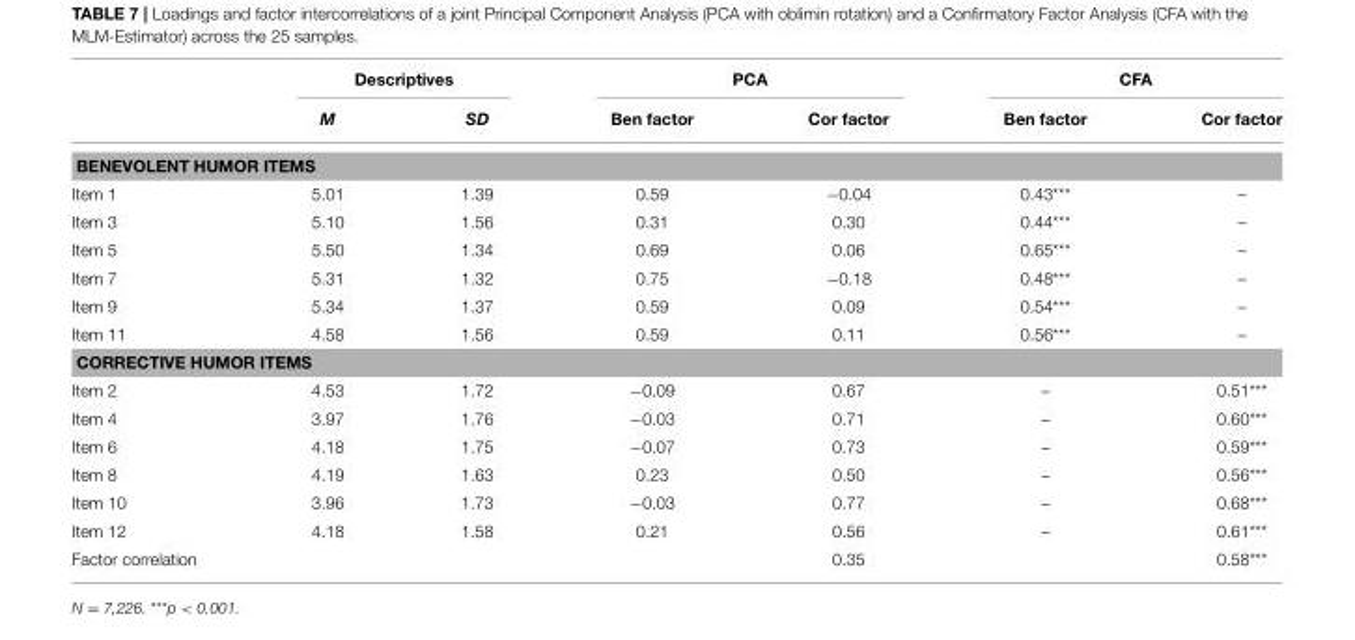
<table><thead><tr><td rowspan="2"></td><td colspan="2">Descriptives</td><td colspan="2">PCA</td><td colspan="2">CFA</td></tr><tr><td>M</td><td>SD</td><td>Ben factor</td><td>Cor factor</td><td>Ben factor</td><td>Cor factor</td></tr></thead><tbody><tr><td colspan="7">BENEVOLENT HUMOR ITEMS</td></tr><tr><td>Item 1</td><td>5.01</td><td>1.39</td><td>0.59</td><td>−0.04</td><td>0.43***</td><td>–</td></tr><tr><td>Item 3</td><td>5.10</td><td>1.56</td><td>0.31</td><td>0.30</td><td>0.44***</td><td>–</td></tr><tr><td>Item 5</td><td>5.50</td><td>1.34</td><td>0.69</td><td>0.06</td><td>0.65***</td><td>–</td></tr><tr><td>Item 7</td><td>5.31</td><td>1.32</td><td>0.75</td><td>−0.18</td><td>0.48***</td><td>–</td></tr><tr><td>Item 9</td><td>5.34</td><td>1.37</td><td>0.59</td><td>0.09</td><td>0.54***</td><td>–</td></tr><tr><td>Item 11</td><td>4.58</td><td>1.56</td><td>0.59</td><td>0.11</td><td>0.56***</td><td>–</td></tr><tr><td colspan="7">CORRECTIVE HUMOR ITEMS</td></tr><tr><td>Item 2</td><td>4.53</td><td>1.72</td><td>−0.09</td><td>0.67</td><td>–</td><td>0.51***</td></tr><tr><td>Item 4</td><td>3.97</td><td>1.76</td><td>−0.03</td><td>0.71</td><td>–</td><td>0.60***</td></tr><tr><td>Item 6</td><td>4.18</td><td>1.75</td><td>−0.07</td><td>0.73</td><td>–</td><td>0.59***</td></tr><tr><td>Item 8</td><td>4.19</td><td>1.63</td><td>0.23</td><td>0.50</td><td>–</td><td>0.56***</td></tr><tr><td>Item 10</td><td>3.96</td><td>1.73</td><td>−0.03</td><td>0.77</td><td>–</td><td>0.68***</td></tr><tr><td>Item 12</td><td>4.18</td><td>1.58</td><td>0.21</td><td>0.56</td><td>–</td><td>0.61***</td></tr><tr><td>Factor correlation</td><td></td><td></td><td></td><td>0.35</td><td></td><td>0.58***</td></tr></tbody></table>